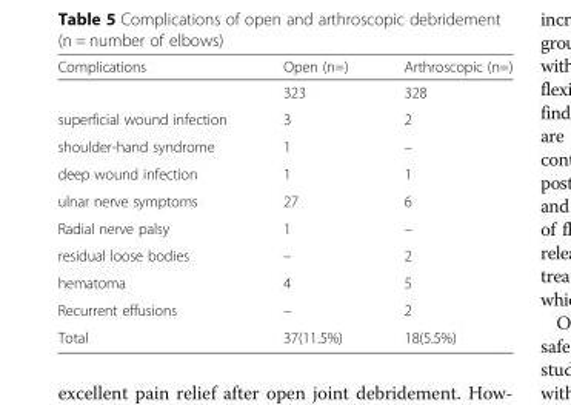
<table><thead><tr><td>Complications</td><td>Open (n=)</td><td>Arthroscopic (n=)</td></tr></thead><tbody><tr><td></td><td>323</td><td>328</td></tr><tr><td>superficial wound infection</td><td>3</td><td>2</td></tr><tr><td>shoulder-hand syndrome</td><td>1</td><td>–</td></tr><tr><td>deep wound infection</td><td>1</td><td>1</td></tr><tr><td>ulnar nerve symptoms</td><td>27</td><td>6</td></tr><tr><td>Radial nerve palsy</td><td>1</td><td>–</td></tr><tr><td>residual loose bodies</td><td>–</td><td>2</td></tr><tr><td>hematoma</td><td>4</td><td>5</td></tr><tr><td>Recurrent effusions</td><td>–</td><td>2</td></tr><tr><td>Total</td><td>37(11.5%)</td><td>18(5.5%)</td></tr></tbody></table>